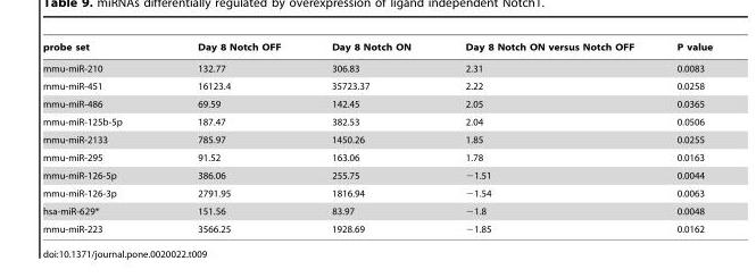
<table><thead><tr><td>probe set</td><td>Day 8 Notch OFF</td><td>Day 8 Notch ON</td><td>Day 8 Notch ON versus Notch OFF</td><td>P value</td></tr></thead><tbody><tr><td>mmu-miR-210</td><td>132.77</td><td>306.83</td><td>2.31</td><td>0.0083</td></tr><tr><td>mmu-miR-451</td><td>16123.4</td><td>35723.37</td><td>2.22</td><td>0.0258</td></tr><tr><td>mmu-miR-486</td><td>69.59</td><td>142.45</td><td>2.05</td><td>0.0365</td></tr><tr><td>mmu-miR-125b-5p</td><td>187.47</td><td>382.53</td><td>2.04</td><td>0.0506</td></tr><tr><td>mmu-miR-2133</td><td>785.97</td><td>1450.26</td><td>1.85</td><td>0.0255</td></tr><tr><td>mmu-miR-295</td><td>91.52</td><td>163.06</td><td>1.78</td><td>0.0163</td></tr><tr><td>mmu-miR-126-5p</td><td>386.06</td><td>255.75</td><td>−1.51</td><td>0.0044</td></tr><tr><td>mmu-miR-126-3p</td><td>2791.95</td><td>1816.94</td><td>−1.54</td><td>0.0063</td></tr><tr><td>hsa-miR-629*</td><td>151.56</td><td>83.97</td><td>−1.8</td><td>0.0048</td></tr><tr><td>mmu-miR-223</td><td>3566.25</td><td>1928.69</td><td>−1.85</td><td>0.0162</td></tr></tbody></table>